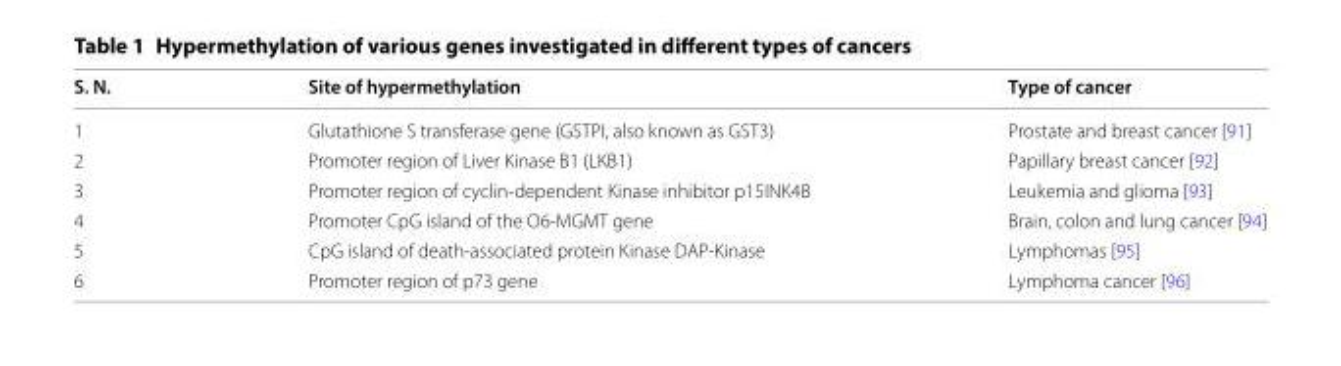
<table><thead><tr><td>S. N.</td><td>Site of hypermethylation</td><td>Type of cancer</td></tr></thead><tbody><tr><td>1</td><td>Glutathione S transferase gene (GSTPI, also known as GST3)</td><td>Prostate and breast cancer [91]</td></tr><tr><td>2</td><td>Promoter region of Liver Kinase B1 (LKB1)</td><td>Papillary breast cancer [92]</td></tr><tr><td>3</td><td>Promoter region of cyclin-dependent Kinase inhibitor p15INK4B</td><td>Leukemia and glioma [93]</td></tr><tr><td>4</td><td>Promoter CpG island of the O6-MGMT gene</td><td>Brain, colon and lung cancer [94]</td></tr><tr><td>5</td><td>CpG island of death-associated protein Kinase DAP-Kinase</td><td>Lymphomas [95]</td></tr><tr><td>6</td><td>Promoter region of p73 gene</td><td>Lymphoma cancer [96]</td></tr></tbody></table>